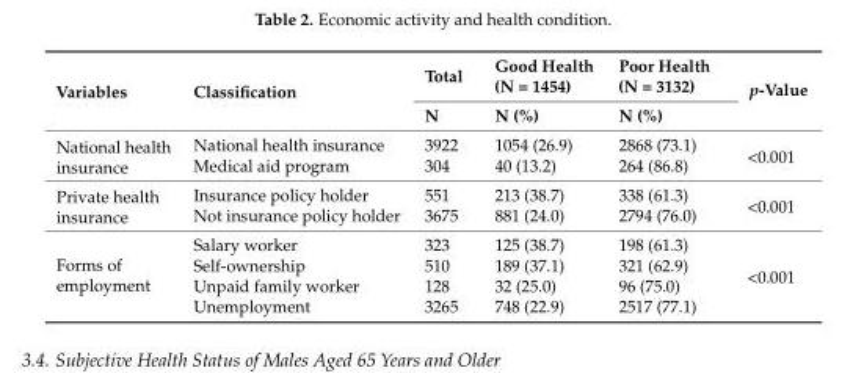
<table><thead><tr><td rowspan="2">Variables</td><td rowspan="2">Classification</td><td rowspan="2">Total N</td><td rowspan="2">Good Health (N = 1454) N (%)</td><td rowspan="2">Poor Health (N = 3132) N (%)</td><td rowspan="2">p-Value</td></tr><tr></tr></thead><tbody><tr><td rowspan="2">National health insurance</td><td>National health insurance</td><td>3922</td><td>1054 (26.9)</td><td>2868 (73.1)</td><td rowspan="2">&lt;0.001</td></tr><tr><td>Medical aid program</td><td>304</td><td>40 (13.2)</td><td>264 (86.8)</td></tr><tr><td rowspan="2">Private health insurance</td><td>Insurance policy holder</td><td>551</td><td>213 (38.7)</td><td>338 (61.3)</td><td rowspan="2">&lt;0.001</td></tr><tr><td>Not insurance policy holder</td><td>3675</td><td>881 (24.0)</td><td>2794 (76.0)</td></tr><tr><td rowspan="4">Forms of employment</td><td>Salary worker</td><td>323</td><td>125 (38.7)</td><td>198 (61.3)</td><td rowspan="4">&lt;0.001</td></tr><tr><td>Self-ownership</td><td>510</td><td>189 (37.1)</td><td>321 (62.9)</td></tr><tr><td>Unpaid family worker</td><td>128</td><td>32 (25.0)</td><td>96 (75.0)</td></tr><tr><td>Unemployment</td><td>3265</td><td>748 (22.9)</td><td>2517 (77.1)</td></tr></tbody></table>